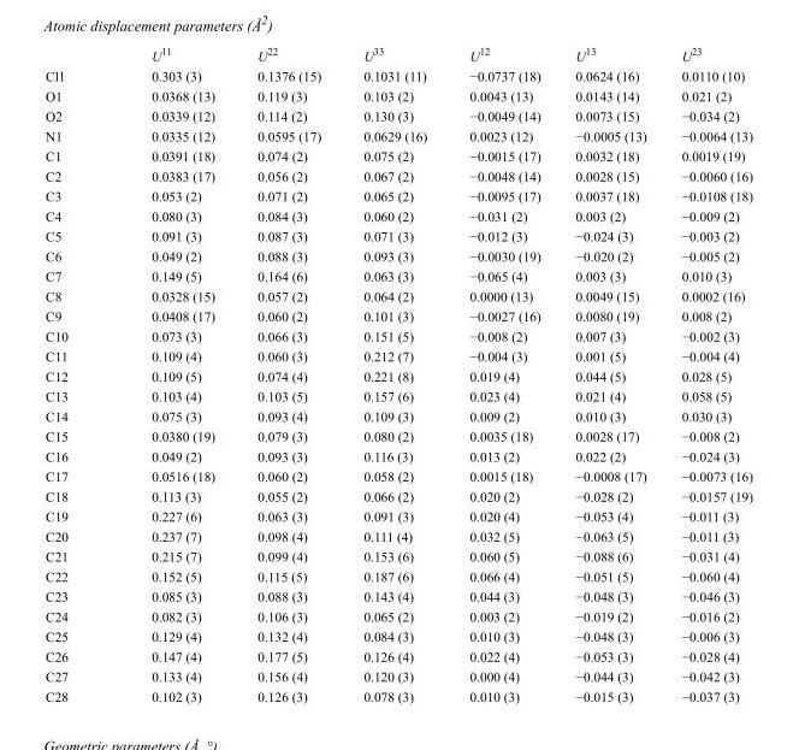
<table><thead><tr><td></td><td>U<sup>11</sup></td><td>U<sup>22</sup></td><td>U<sup>33</sup></td><td>U<sup>12</sup></td><td>U<sup>13</sup></td><td>U<sup>23</sup></td></tr></thead><tbody><tr><td>Cl1</td><td>0.303 (3)</td><td>0.1376 (15)</td><td>0.1031 (11)</td><td>−0.0737 (18)</td><td>0.0624 (16)</td><td>0.0110 (10)</td></tr><tr><td>O1</td><td>0.0368 (13)</td><td>0.119 (3)</td><td>0.103 (2)</td><td>0.0043 (13)</td><td>0.0143 (14)</td><td>0.021 (2)</td></tr><tr><td>O2</td><td>0.0339 (12)</td><td>0.114 (2)</td><td>0.130 (3)</td><td>−0.0049 (14)</td><td>0.0073 (15)</td><td>−0.034 (2)</td></tr><tr><td>N1</td><td>0.0335 (12)</td><td>0.0595 (17)</td><td>0.0629 (16)</td><td>0.0023 (12)</td><td>−0.0005 (13)</td><td>−0.0064 (13)</td></tr><tr><td>C1</td><td>0.0391 (18)</td><td>0.074 (2)</td><td>0.075 (2)</td><td>−0.0015 (17)</td><td>0.0032 (18)</td><td>0.0019 (19)</td></tr><tr><td>C2</td><td>0.0383 (17)</td><td>0.056 (2)</td><td>0.067 (2)</td><td>−0.0048 (14)</td><td>0.0028 (15)</td><td>−0.0060 (16)</td></tr><tr><td>C3</td><td>0.053 (2)</td><td>0.071 (2)</td><td>0.065 (2)</td><td>−0.0095 (17)</td><td>0.0037 (18)</td><td>−0.0108 (18)</td></tr><tr><td>C4</td><td>0.080 (3)</td><td>0.084 (3)</td><td>0.060 (2)</td><td>−0.031 (2)</td><td>0.003 (2)</td><td>−0.009 (2)</td></tr><tr><td>C5</td><td>0.091 (3)</td><td>0.087 (3)</td><td>0.071 (3)</td><td>−0.012 (3)</td><td>−0.024 (3)</td><td>−0.003 (2)</td></tr><tr><td>C6</td><td>0.049 (2)</td><td>0.088 (3)</td><td>0.093 (3)</td><td>−0.0030 (19)</td><td>−0.020 (2)</td><td>−0.005 (2)</td></tr><tr><td>C7</td><td>0.149 (5)</td><td>0.164 (6)</td><td>0.063 (3)</td><td>−0.065 (4)</td><td>0.003 (3)</td><td>0.010 (3)</td></tr><tr><td>C8</td><td>0.0328 (15)</td><td>0.057 (2)</td><td>0.064 (2)</td><td>0.0000 (13)</td><td>0.0049 (15)</td><td>0.0002 (16)</td></tr><tr><td>C9</td><td>0.0408 (17)</td><td>0.060 (2)</td><td>0.101 (3)</td><td>−0.0027 (16)</td><td>0.0080 (19)</td><td>0.008 (2)</td></tr><tr><td>C10</td><td>0.073 (3)</td><td>0.066 (3)</td><td>0.151 (5)</td><td>−0.008 (2)</td><td>0.007 (3)</td><td>−0.002 (3)</td></tr><tr><td>C11</td><td>0.109 (4)</td><td>0.060 (3)</td><td>0.212 (7)</td><td>−0.004 (3)</td><td>0.001 (5)</td><td>−0.004 (4)</td></tr><tr><td>C12</td><td>0.109 (5)</td><td>0.074 (4)</td><td>0.221 (8)</td><td>0.019 (4)</td><td>0.044 (5)</td><td>0.028 (5)</td></tr><tr><td>C13</td><td>0.103 (4)</td><td>0.103 (5)</td><td>0.157 (6)</td><td>0.023 (4)</td><td>0.021 (4)</td><td>0.058 (5)</td></tr><tr><td>C14</td><td>0.075 (3)</td><td>0.093 (4)</td><td>0.109 (3)</td><td>0.009 (2)</td><td>0.010 (3)</td><td>0.030 (3)</td></tr><tr><td>C15</td><td>0.0380 (19)</td><td>0.079 (3)</td><td>0.080 (2)</td><td>0.0035 (18)</td><td>0.0028 (17)</td><td>−0.008 (2)</td></tr><tr><td>C16</td><td>0.049 (2)</td><td>0.093 (3)</td><td>0.116 (3)</td><td>0.013 (2)</td><td>0.022 (2)</td><td>−0.024 (3)</td></tr><tr><td>C17</td><td>0.0516 (18)</td><td>0.060 (2)</td><td>0.058 (2)</td><td>0.0015 (18)</td><td>−0.0008 (17)</td><td>−0.0073 (16)</td></tr><tr><td>C18</td><td>0.113 (3)</td><td>0.055 (2)</td><td>0.066 (2)</td><td>0.020 (2)</td><td>−0.028 (2)</td><td>−0.0157 (19)</td></tr><tr><td>C19</td><td>0.227 (6)</td><td>0.063 (3)</td><td>0.091 (3)</td><td>0.020 (4)</td><td>−0.053 (4)</td><td>−0.011 (3)</td></tr><tr><td>C20</td><td>0.237 (7)</td><td>0.098 (4)</td><td>0.111 (4)</td><td>0.032 (5)</td><td>−0.063 (5)</td><td>−0.011 (3)</td></tr><tr><td>C21</td><td>0.215 (7)</td><td>0.099 (4)</td><td>0.153 (6)</td><td>0.060 (5)</td><td>−0.088 (6)</td><td>−0.031 (4)</td></tr><tr><td>C22</td><td>0.152 (5)</td><td>0.115 (5)</td><td>0.187 (6)</td><td>0.066 (4)</td><td>−0.051 (5)</td><td>−0.060 (4)</td></tr><tr><td>C23</td><td>0.085 (3)</td><td>0.088 (3)</td><td>0.143 (4)</td><td>0.044 (3)</td><td>−0.048 (3)</td><td>−0.046 (3)</td></tr><tr><td>C24</td><td>0.082 (3)</td><td>0.106 (3)</td><td>0.065 (2)</td><td>0.003 (2)</td><td>−0.019 (2)</td><td>−0.016 (2)</td></tr><tr><td>C25</td><td>0.129 (4)</td><td>0.132 (4)</td><td>0.084 (3)</td><td>0.010 (3)</td><td>−0.048 (3)</td><td>−0.006 (3)</td></tr><tr><td>C26</td><td>0.147 (4)</td><td>0.177 (5)</td><td>0.126 (4)</td><td>0.022 (4)</td><td>−0.053 (3)</td><td>−0.028 (4)</td></tr><tr><td>C27</td><td>0.133 (4)</td><td>0.156 (4)</td><td>0.120 (3)</td><td>0.000 (4)</td><td>−0.044 (3)</td><td>−0.042 (3)</td></tr><tr><td>C28</td><td>0.102 (3)</td><td>0.126 (3)</td><td>0.078 (3)</td><td>0.010 (3)</td><td>−0.015 (3)</td><td>−0.037 (3)</td></tr></tbody></table>